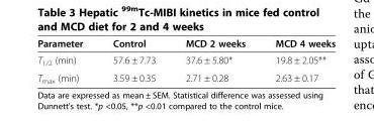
<table><thead><tr><td>Parameter</td><td>Control</td><td>MCD 2 weeks</td><td>MCD 4 weeks</td></tr></thead><tbody><tr><td>T<sub>1/2</sub> (min)</td><td>57.6 ± 7.73</td><td>37.6 ± 5.80*</td><td>19.8 ± 2.05**</td></tr><tr><td>T<sub>max</sub> (min)</td><td>3.59 ± 0.35</td><td>2.71 ± 0.28</td><td>2.63 ± 0.17</td></tr></tbody></table>